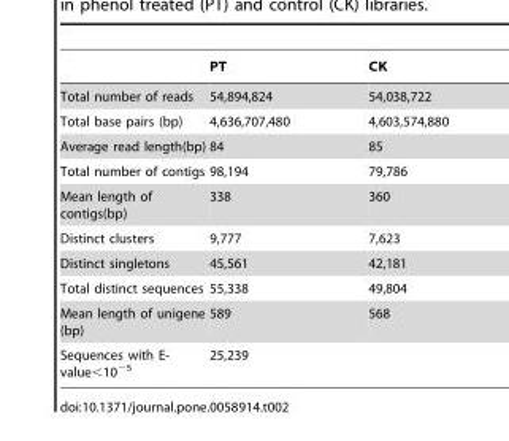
<table><thead><tr><td></td><td>PT</td><td>CK</td></tr></thead><tbody><tr><td>Total number of reads</td><td>54,894,824</td><td>54,038,722</td></tr><tr><td>Total base pairs (bp)</td><td>4,636,707,480</td><td>4,603,574,880</td></tr><tr><td>Average read length(bp)</td><td>84</td><td>85</td></tr><tr><td>Total number of contigs</td><td>98,194</td><td>79,786</td></tr><tr><td>Mean length of contigs(bp)</td><td>338</td><td>360</td></tr><tr><td>Distinct clusters</td><td>9,777</td><td>7,623</td></tr><tr><td>Distinct singletons</td><td>45,561</td><td>42,181</td></tr><tr><td>Total distinct sequences</td><td>55,338</td><td>49,804</td></tr><tr><td>Mean length of unigene (bp)</td><td>589</td><td>568</td></tr><tr><td>Sequences with E- value&lt;10<sup>−5</sup></td><td colspan="2">25,239</td></tr></tbody></table>